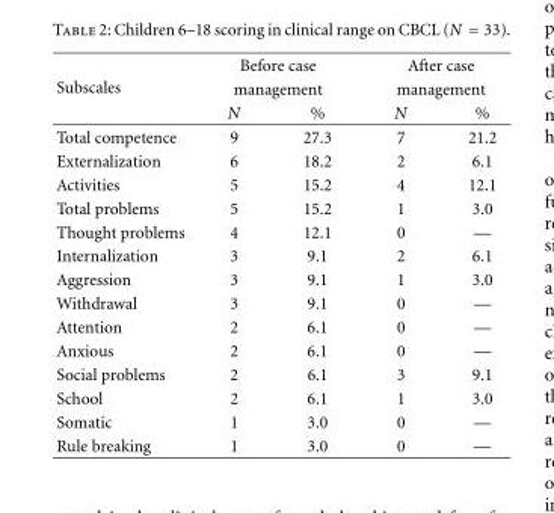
<table><thead><tr><td rowspan="3">Subscales</td><td rowspan="2" colspan="2">Before case management</td><td rowspan="2" colspan="2">After case management</td></tr><tr></tr><tr><td>N</td><td>%</td><td>N</td><td>%</td></tr></thead><tbody><tr><td>Total competence</td><td>9</td><td>27.3</td><td>7</td><td>21.2</td></tr><tr><td>Externalization</td><td>6</td><td>18.2</td><td>2</td><td>6.1</td></tr><tr><td>Activities</td><td>5</td><td>15.2</td><td>4</td><td>12.1</td></tr><tr><td>Total problems</td><td>5</td><td>15.2</td><td>1</td><td>3.0</td></tr><tr><td>Thought problems</td><td>4</td><td>12.1</td><td>0</td><td>—</td></tr><tr><td>Internalization</td><td>3</td><td>9.1</td><td>2</td><td>6.1</td></tr><tr><td>Aggression</td><td>3</td><td>9.1</td><td>1</td><td>3.0</td></tr><tr><td>Withdrawal</td><td>3</td><td>9.1</td><td>0</td><td>—</td></tr><tr><td>Attention</td><td>2</td><td>6.1</td><td>0</td><td>—</td></tr><tr><td>Anxious</td><td>2</td><td>6.1</td><td>0</td><td>—</td></tr><tr><td>Social problems</td><td>2</td><td>6.1</td><td>3</td><td>9.1</td></tr><tr><td>School</td><td>2</td><td>6.1</td><td>1</td><td>3.0</td></tr><tr><td>Somatic</td><td>1</td><td>3.0</td><td>0</td><td>—</td></tr><tr><td>Rule breaking</td><td>1</td><td>3.0</td><td>0</td><td>—</td></tr></tbody></table>